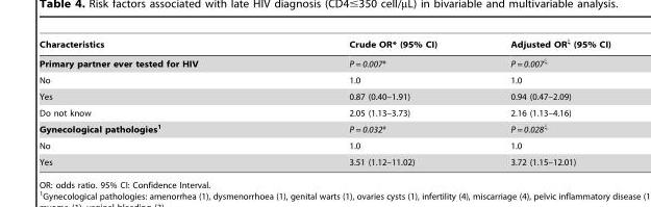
<table><thead><tr><td>Characteristics</td><td>Crude OR* (95% CI)</td><td>Adjusted ORξ (95% CI)</td></tr></thead><tbody><tr><td>Primary partner ever tested for HIV</td><td>P = 0.007*</td><td>P = 0.007ξ</td></tr><tr><td>No</td><td>1.0</td><td>1.0</td></tr><tr><td>Yes</td><td>0.87 (0.40–1.91)</td><td>0.94 (0.47–2.09)</td></tr><tr><td>Do not know</td><td>2.05 (1.13–3.73)</td><td>2.16 (1.13–4.16)</td></tr><tr><td>Gynecological pathologies1</td><td>P = 0.032*</td><td>P = 0.028ξ</td></tr><tr><td>No</td><td>1.0</td><td>1.0</td></tr><tr><td>Yes</td><td>3.51 (1.12–11.02)</td><td>3.72 (1.15–12.01)</td></tr></tbody></table>